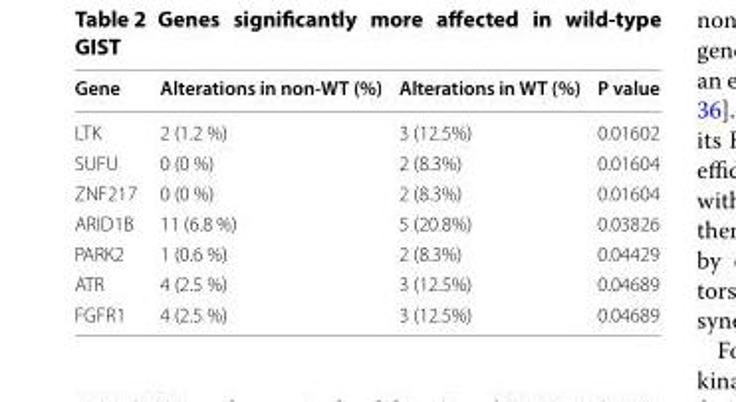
<table><thead><tr><td>Gene</td><td>Alterations in non-WT (%)</td><td>Alterations in WT (%)</td><td>P value</td></tr></thead><tbody><tr><td>LTK</td><td>2 (1.2 %)</td><td>3 (12.5%)</td><td>0.01602</td></tr><tr><td>SUFU</td><td>0 (0 %)</td><td>2 (8.3%)</td><td>0.01604</td></tr><tr><td>ZNF217</td><td>0 (0 %)</td><td>2 (8.3%)</td><td>0.01604</td></tr><tr><td>ARID1B</td><td>11 (6.8 %)</td><td>5 (20.8%)</td><td>0.03826</td></tr><tr><td>PARK2</td><td>1 (0.6 %)</td><td>2 (8.3%)</td><td>0.04429</td></tr><tr><td>ATR</td><td>4 (2.5 %)</td><td>3 (12.5%)</td><td>0.04689</td></tr><tr><td>FGFR1</td><td>4 (2.5 %)</td><td>3 (12.5%)</td><td>0.04689</td></tr></tbody></table>